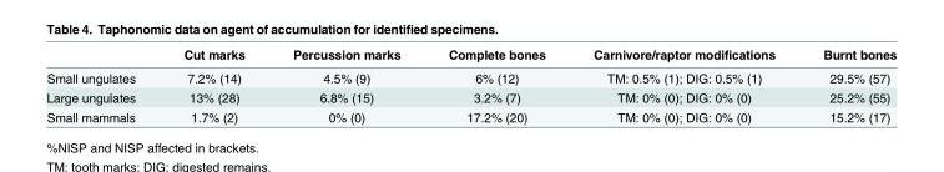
<table><thead><tr><td></td><td>Cut marks</td><td>Percussion marks</td><td>Complete bones</td><td>Carnivore/raptor modifications</td><td>Burnt bones</td></tr></thead><tbody><tr><td>Small ungulates</td><td>7.2% (14)</td><td>4.5% (9)</td><td>6% (12)</td><td>TM: 0.5% (1); DIG: 0.5% (1)</td><td>29.5% (57)</td></tr><tr><td>Large ungulates</td><td>13% (28)</td><td>6.8% (15)</td><td>3.2% (7)</td><td>TM: 0% (0); DIG: 0% (0)</td><td>25.2% (55)</td></tr><tr><td>Small mammals</td><td>1.7% (2)</td><td>0% (0)</td><td>17.2% (20)</td><td>TM: 0% (0); DIG: 0% (0)</td><td>15.2% (17)</td></tr></tbody></table>